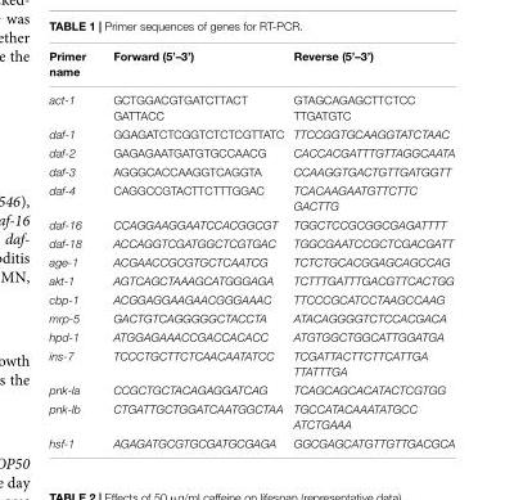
<table><thead><tr><td>Primer name</td><td>Forward (5’–3’)</td><td>Reverse (5’–3’)</td></tr></thead><tbody><tr><td>act-1</td><td>GCTGGACGTGATCTTACT GATTACC</td><td>GTAGCAGAGCTTCTCC TTGATGTC</td></tr><tr><td>daf-1</td><td>GGAGATCTCGGTCTCTCGTTATC</td><td>TTCCGGTGCAAGGTATCTAAC</td></tr><tr><td>daf-2</td><td>GAGAGAATGATGTGCCAACG</td><td>CACCACGATTTGTTAGGCAATA</td></tr><tr><td>daf-3</td><td>AGGGCACCAAGGTCAGGTA</td><td>CCAAGGTGACTGTTGATGGTT</td></tr><tr><td>daf-4</td><td>CAGGCCGTACTTCTTTGGAC</td><td>TCACAAGAATGTTCTTC GACTTG</td></tr><tr><td>daf-16</td><td>CCAGGAAGGAATCCACGGCGT</td><td>TGGCTCCGCGGCGAGATTTT</td></tr><tr><td>daf-18</td><td>ACCAGGTCGATGGCTCGTGAC</td><td>TGGCGAATCCGCTCGACGATT</td></tr><tr><td>age-1</td><td>ACGAACCGCGTGCTCAATCG</td><td>TCTCTGCACGGAGCAGCCAG</td></tr><tr><td>akt-1</td><td>AGTCAGCTAAAGCATGGGAGA</td><td>TCTTTGATTTGACGTTCACTGG</td></tr><tr><td>cbp-1</td><td>ACGGAGGAAGAACGGGAAAC</td><td>TTCCCGCATCCTAAGCCAAG</td></tr><tr><td>mrp-5</td><td>GACTGTCAGGGGGCTACCTA</td><td>ATACAGGGGTCTCCACGACA</td></tr><tr><td>hpd-1</td><td>ATGGAGAAACCGACCACACC</td><td>ATGTGGCTGGCATTGGATGA</td></tr><tr><td>ins-7</td><td>TCCCTGCTTCTCAACAATATCC</td><td>TCGATTACTTCTTCATTGA TTATTTGA</td></tr><tr><td>pnk-la</td><td>CCGCTGCTACAGAGGATCAG</td><td>TCAGCAGCACATACTCGTGG</td></tr><tr><td>pnk-lb</td><td>CTGATTGCTGGATCAATGGCTAA</td><td>TGCCATACAAATATGCC ATCTGAAA</td></tr><tr><td>hsf-1</td><td>AGAGATGCGTGCGATGCGAGA</td><td>GGCGAGCATGTTGTTGACGCA</td></tr></tbody></table>